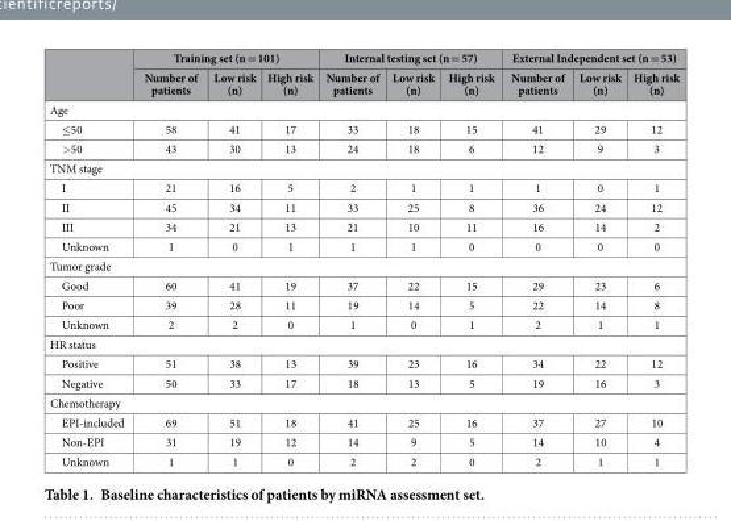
<table><thead><tr><td rowspan="2"></td><td colspan="3">Training set (n = 101)</td><td colspan="3">Internal testing set (n = 57)</td><td colspan="3">External Independent set (n = 53)</td></tr><tr><td>Number of patients</td><td>Low risk (n)</td><td>High risk (n)</td><td>Number of patients</td><td>Low risk (n)</td><td>High risk (n)</td><td>Number of patients</td><td>Low risk (n)</td><td>High risk (n)</td></tr></thead><tbody><tr><td colspan="10">Age</td></tr><tr><td>≤ 50</td><td>58</td><td>41</td><td>17</td><td>33</td><td>18</td><td>15</td><td>41</td><td>29</td><td>12</td></tr><tr><td>&gt; 50</td><td>43</td><td>30</td><td>13</td><td>24</td><td>18</td><td>6</td><td>12</td><td>9</td><td>3</td></tr><tr><td colspan="10">TNM stage</td></tr><tr><td>I</td><td>21</td><td>16</td><td>5</td><td>2</td><td>1</td><td>1</td><td>1</td><td>0</td><td>1</td></tr><tr><td>II</td><td>45</td><td>34</td><td>11</td><td>33</td><td>25</td><td>8</td><td>36</td><td>24</td><td>12</td></tr><tr><td>III</td><td>34</td><td>21</td><td>13</td><td>21</td><td>10</td><td>11</td><td>16</td><td>14</td><td>2</td></tr><tr><td>Unknown</td><td>1</td><td>0</td><td>1</td><td>1</td><td>1</td><td>0</td><td>0</td><td>0</td><td>0</td></tr><tr><td colspan="10">Tumor grade</td></tr><tr><td>Good</td><td>60</td><td>41</td><td>19</td><td>37</td><td>22</td><td>15</td><td>29</td><td>23</td><td>6</td></tr><tr><td>Poor</td><td>39</td><td>28</td><td>11</td><td>19</td><td>14</td><td>5</td><td>22</td><td>14</td><td>8</td></tr><tr><td>Unknown</td><td>2</td><td>2</td><td>0</td><td>1</td><td>0</td><td>1</td><td>2</td><td>1</td><td>1</td></tr><tr><td colspan="10">HR status</td></tr><tr><td>Positive</td><td>51</td><td>38</td><td>13</td><td>39</td><td>23</td><td>16</td><td>34</td><td>22</td><td>12</td></tr><tr><td>Negative</td><td>50</td><td>33</td><td>17</td><td>18</td><td>13</td><td>5</td><td>19</td><td>16</td><td>3</td></tr><tr><td colspan="10">Chemotherapy</td></tr><tr><td>EPI-included</td><td>69</td><td>51</td><td>18</td><td>41</td><td>25</td><td>16</td><td>37</td><td>27</td><td>10</td></tr><tr><td>Non-EPI</td><td>31</td><td>19</td><td>12</td><td>14</td><td>9</td><td>5</td><td>14</td><td>10</td><td>4</td></tr><tr><td>Unknown</td><td>1</td><td>1</td><td>0</td><td>2</td><td>2</td><td>0</td><td>2</td><td>1</td><td>1</td></tr></tbody></table>